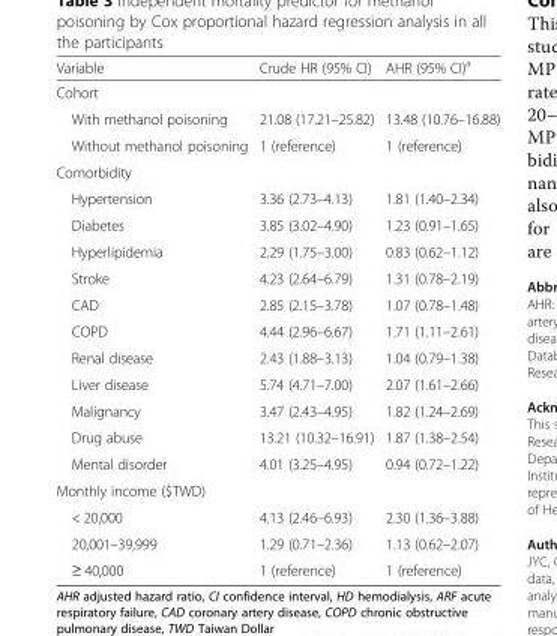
<table><thead><tr><td>Variable</td><td>Crude HR (95% CI)</td><td>AHR (95% CI)<sup>a</sup></td></tr></thead><tbody><tr><td colspan="3">Cohort</td></tr><tr><td>With methanol poisoning</td><td>21.08 (17.21–25.82)</td><td>13.48 (10.76–16.88)</td></tr><tr><td>Without methanol poisoning</td><td>1 (reference)</td><td>1 (reference)</td></tr><tr><td colspan="3">Comorbidity</td></tr><tr><td>Hypertension</td><td>3.36 (2.73–4.13)</td><td>1.81 (1.40–2.34)</td></tr><tr><td>Diabetes</td><td>3.85 (3.02–4.90)</td><td>1.23 (0.91–1.65)</td></tr><tr><td>Hyperlipidemia</td><td>2.29 (1.75–3.00)</td><td>0.83 (0.62–1.12)</td></tr><tr><td>Stroke</td><td>4.23 (2.64–6.79)</td><td>1.31 (0.78–2.19)</td></tr><tr><td>CAD</td><td>2.85 (2.15–3.78)</td><td>1.07 (0.78–1.48)</td></tr><tr><td>COPD</td><td>4.44 (2.96–6.67)</td><td>1.71 (1.11–2.61)</td></tr><tr><td>Renal disease</td><td>2.43 (1.88–3.13)</td><td>1.04 (0.79–1.38)</td></tr><tr><td>Liver disease</td><td>5.74 (4.71–7.00)</td><td>2.07 (1.61–2.66)</td></tr><tr><td>Malignancy</td><td>3.47 (2.43–4.95)</td><td>1.82 (1.24–2.69)</td></tr><tr><td>Drug abuse</td><td>13.21 (10.32–16.91)</td><td>1.87 (1.38–2.54)</td></tr><tr><td>Mental disorder</td><td>4.01 (3.25–4.95)</td><td>0.94 (0.72–1.22)</td></tr><tr><td colspan="3">Monthly income ($TWD)</td></tr><tr><td>&lt; 20,000</td><td>4.13 (2.46–6.93)</td><td>2.30 (1.36–3.88)</td></tr><tr><td>20,001–39,999</td><td>1.29 (0.71–2.36)</td><td>1.13 (0.62–2.07)</td></tr><tr><td>≥ 40,000</td><td>1 (reference)</td><td>1 (reference)</td></tr></tbody></table>